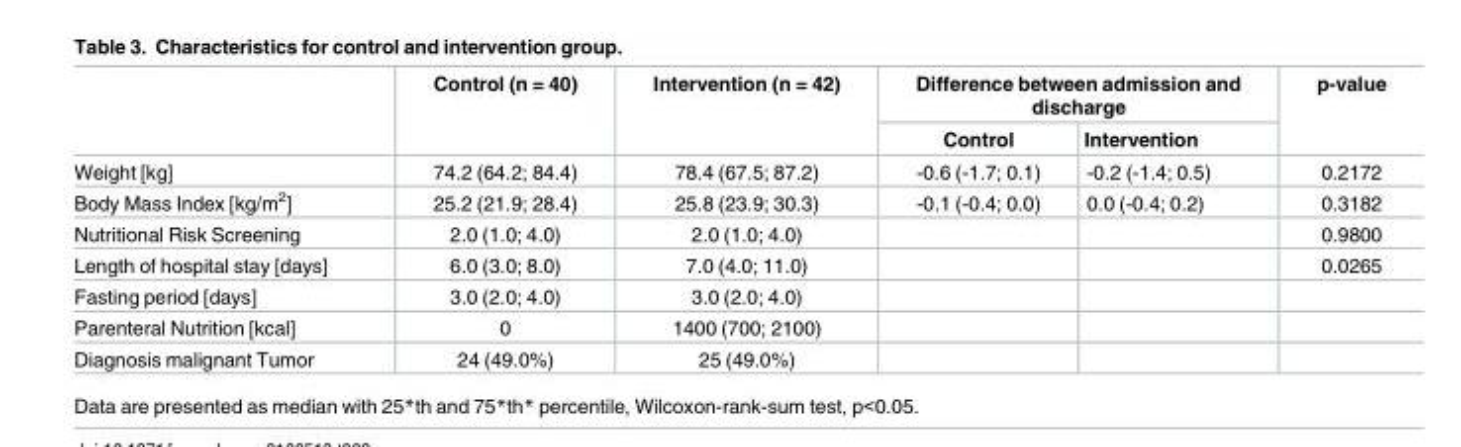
<table><thead><tr><td rowspan="2"></td><td rowspan="2">Control (n = 40)</td><td rowspan="2">Intervention (n = 42)</td><td colspan="2">Difference between admission and discharge</td><td rowspan="2">p-value</td></tr><tr><td>Control</td><td>Intervention</td></tr></thead><tbody><tr><td>Weight [kg]</td><td>74.2 (64.2; 84.4)</td><td>78.4 (67.5; 87.2)</td><td>-0.6 (-1.7; 0.1)</td><td>-0.2 (-1.4; 0.5)</td><td>0.2172</td></tr><tr><td>Body Mass Index [kg/m<sup>2</sup>]</td><td>25.2 (21.9; 28.4)</td><td>25.8 (23.9; 30.3)</td><td>-0.1 (-0.4; 0.0)</td><td>0.0 (-0.4; 0.2)</td><td>0.3182</td></tr><tr><td>Nutritional Risk Screening</td><td>2.0 (1.0; 4.0)</td><td>2.0 (1.0; 4.0)</td><td></td><td></td><td>0.9800</td></tr><tr><td>Length of hospital stay [days]</td><td>6.0 (3.0; 8.0)</td><td>7.0 (4.0; 11.0)</td><td></td><td></td><td>0.0265</td></tr><tr><td>Fasting period [days]</td><td>3.0 (2.0; 4.0)</td><td>3.0 (2.0; 4.0)</td><td></td><td></td><td></td></tr><tr><td>Parenteral Nutrition [kcal]</td><td>0</td><td>1400 (700; 2100)</td><td></td><td></td><td></td></tr><tr><td>Diagnosis malignant Tumor</td><td>24 (49.0%)</td><td>25 (49.0%)</td><td></td><td></td><td></td></tr></tbody></table>